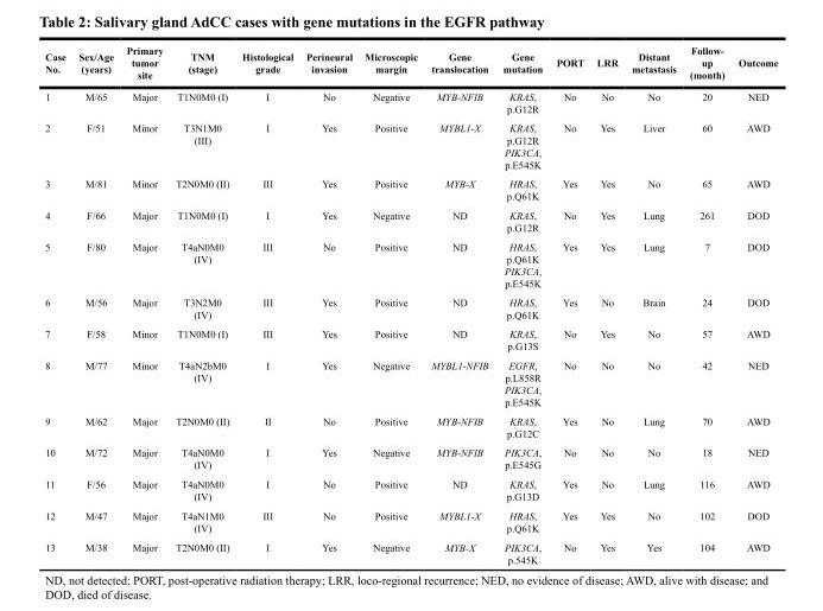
<table><thead><tr><td>Case No.</td><td>Sex/Age (years)</td><td>Primary tumor site</td><td>TNM (stage)</td><td>Histological grade</td><td>Perineural invasion</td><td>Microscopic margin</td><td>Gene translocation</td><td>Gene mutation</td><td>PORT</td><td>LRR</td><td>Distant metastasis</td><td>Follow- up (month)</td><td>Outcome</td></tr></thead><tbody><tr><td>1</td><td>M/65</td><td>Major</td><td>T1N0M0 (I)</td><td>I</td><td>No</td><td>Negative</td><td>MYB-NFIB</td><td>KRAS, p.G12R</td><td>No</td><td>No</td><td>No</td><td>20</td><td>NED</td></tr><tr><td>2</td><td>F/51</td><td>Minor</td><td>T3N1M0 (III)</td><td>I</td><td>Yes</td><td>Positive</td><td>MYBL1-X</td><td>KRAS, p.G12R PIK3CA, p.E545K</td><td>No</td><td>Yes</td><td>Liver</td><td>60</td><td>AWD</td></tr><tr><td>3</td><td>M/81</td><td>Minor</td><td>T2N0M0 (II)</td><td>III</td><td>Yes</td><td>Positive</td><td>MYB-X</td><td>HRAS, p.Q61K</td><td>Yes</td><td>Yes</td><td>No</td><td>65</td><td>AWD</td></tr><tr><td>4</td><td>F/66</td><td>Major</td><td>T1N0M0 (I)</td><td>I</td><td>Yes</td><td>Negative</td><td>ND</td><td>KRAS, p.G12R</td><td>No</td><td>Yes</td><td>Lung</td><td>261</td><td>DOD</td></tr><tr><td>5</td><td>F/80</td><td>Major</td><td>T4aN0M0 (IV)</td><td>III</td><td>No</td><td>Positive</td><td>ND</td><td>HRAS, p.Q61K PIK3CA, p.E545K</td><td>Yes</td><td>Yes</td><td>Lung</td><td>7</td><td>DOD</td></tr><tr><td>6</td><td>M/56</td><td>Major</td><td>T3N2M0 (IV)</td><td>III</td><td>Yes</td><td>Positive</td><td>ND</td><td>HRAS, p.Q61K</td><td>Yes</td><td>No</td><td>Brain</td><td>24</td><td>DOD</td></tr><tr><td>7</td><td>F/58</td><td>Minor</td><td>T1N0M0 (I)</td><td>III</td><td>Yes</td><td>Positive</td><td>ND</td><td>KRAS, p.G13S</td><td>No</td><td>Yes</td><td>No</td><td>57</td><td>AWD</td></tr><tr><td>8</td><td>M/77</td><td>Minor</td><td>T4aN2bM0 (IV)</td><td>I</td><td>Yes</td><td>Negative</td><td>MYBL1-NFIB</td><td>EGFR, p.L858R PIK3CA, p.E545K</td><td>No</td><td>No</td><td>No</td><td>42</td><td>NED</td></tr><tr><td>9</td><td>M/62</td><td>Major</td><td>T2N0M0 (II)</td><td>II</td><td>No</td><td>Positive</td><td>MYB-NFIB</td><td>KRAS, p.G12C</td><td>Yes</td><td>No</td><td>Lung</td><td>70</td><td>AWD</td></tr><tr><td>10</td><td>M/72</td><td>Major</td><td>T4aN0M0 (IV)</td><td>I</td><td>Yes</td><td>Negative</td><td>MYB-NFIB</td><td>PIK3CA, p.E545G</td><td>No</td><td>No</td><td>No</td><td>18</td><td>NED</td></tr><tr><td>11</td><td>F/56</td><td>Major</td><td>T4aN0M0 (IV)</td><td>I</td><td>No</td><td>Positive</td><td>ND</td><td>KRAS, p.G13D</td><td>Yes</td><td>No</td><td>Lung</td><td>116</td><td>AWD</td></tr><tr><td>12</td><td>M/47</td><td>Major</td><td>T4aN1M0 (IV)</td><td>III</td><td>No</td><td>Positive</td><td>MYBL1-X</td><td>HRAS, p.Q61K</td><td>Yes</td><td>Yes</td><td>No</td><td>102</td><td>DOD</td></tr><tr><td>13</td><td>M/38</td><td>Major</td><td>T2N0M0 (II)</td><td>I</td><td>Yes</td><td>Negative</td><td>MYB-X</td><td>PIK3CA, p.545K</td><td>No</td><td>Yes</td><td>Yes</td><td>104</td><td>AWD</td></tr></tbody></table>